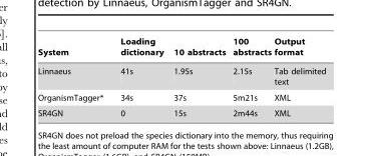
<table><thead><tr><td>System</td><td>Loading dictionary</td><td>10 abstracts</td><td>100 abstracts</td><td>Output format</td></tr></thead><tbody><tr><td>Linnaeus</td><td>41s</td><td>1.95s</td><td>2.15s</td><td>Tab delimited text</td></tr><tr><td>OrganismTagger*</td><td>34s</td><td>37s</td><td>5m21s</td><td>XML</td></tr><tr><td>SR4GN</td><td>0</td><td>15s</td><td>2m44s</td><td>XML</td></tr></tbody></table>